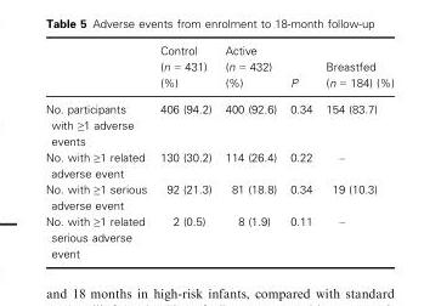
<table><thead><tr><td></td><td>Control (n = 431) (%)</td><td>Active (n = 432) (%)</td><td>P</td><td>Breastfed (n = 184) (%)</td></tr></thead><tbody><tr><td>No. participants with ≥1 adverse events</td><td>406 (94.2)</td><td>400 (92.6)</td><td>0.34</td><td>154 (83.7)</td></tr><tr><td>No. with ≥1 related adverse event</td><td>130 (30.2)</td><td>114 (26.4)</td><td>0.22</td><td>–</td></tr><tr><td>No. with ≥1 serious adverse event</td><td>92 (21.3)</td><td>81 (18.8)</td><td>0.34</td><td>19 (10.3)</td></tr><tr><td>No. with ≥1 related serious adverse event</td><td>2 (0.5)</td><td>8 (1.9)</td><td>0.11</td><td>–</td></tr></tbody></table>